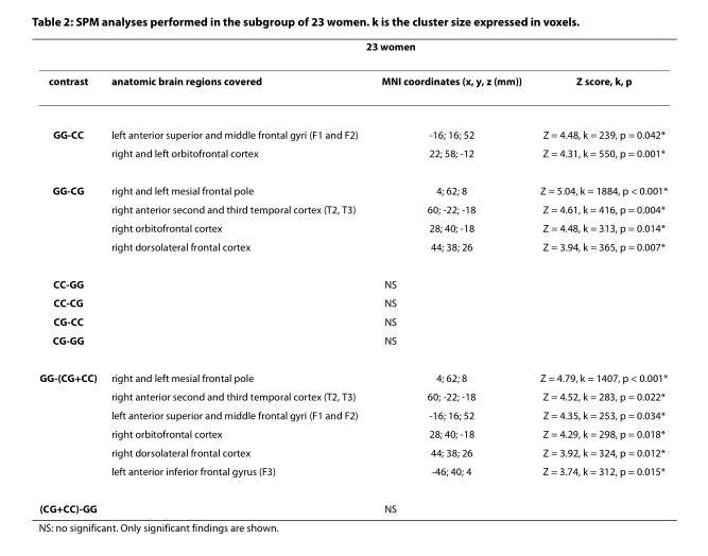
<table><thead><tr><td rowspan="2">contrast</td><td colspan="3">23 women</td></tr><tr><td>anatomic brain regions covered</td><td>MNI coordinates (x, y, z (mm))</td><td>Z score, k, p</td></tr></thead><tbody><tr><td rowspan="2">GG-CC</td><td>left anterior superior and middle frontal gyri (F1 and F2)</td><td>-16; 16; 52</td><td>Z = 4.48, k = 239, p = 0.042*</td></tr><tr><td>right and left orbitofrontal cortex</td><td>22; 58; -12</td><td>Z = 4.31, k = 550, p = 0.001*</td></tr><tr><td rowspan="4">GG-CG</td><td>right and left mesial frontal pole</td><td>4; 62; 8</td><td>Z = 5.04, k = 1884, p &lt; 0.001*</td></tr><tr><td>right anterior second and third temporal cortex (T2, T3)</td><td>60; -22; -18</td><td>Z = 4.61, k = 416, p = 0.004*</td></tr><tr><td>right orbitofrontal cortex</td><td>28; 40; -18</td><td>Z = 4.48, k = 313, p = 0.014*</td></tr><tr><td>right dorsolateral frontal cortex</td><td>44; 38; 26</td><td>Z = 3.94, k = 365, p = 0.007*</td></tr><tr><td>CC-GG</td><td colspan="3">NS</td></tr><tr><td>CC-CG</td><td colspan="3">NS</td></tr><tr><td>CG-CC</td><td colspan="3">NS</td></tr><tr><td>CG-GG</td><td colspan="3">NS</td></tr><tr><td rowspan="6">GG-(CG+CC)</td><td>right and left mesial frontal pole</td><td>4; 62; 8</td><td>Z = 4.79, k = 1407, p &lt; 0.001*</td></tr><tr><td>right anterior second and third temporal cortex (T2, T3)</td><td>60; -22; -18</td><td>Z = 4.52, k = 283, p = 0.022*</td></tr><tr><td>left anterior superior and middle frontal gyri (F1 and F2)</td><td>-16; 16; 52</td><td>Z = 4.35, k = 253, p = 0.034*</td></tr><tr><td>right orbitofrontal cortex</td><td>28; 40; -18</td><td>Z = 4.29, k = 298, p = 0.018*</td></tr><tr><td>right dorsolateral frontal cortex</td><td>44; 38; 26</td><td>Z = 3.92, k = 324, p = 0.012*</td></tr><tr><td>left anterior inferior frontal gyrus (F3)</td><td>-46; 40; 4</td><td>Z = 3.74, k = 312, p = 0.015*</td></tr><tr><td>(CG+CC)-GG</td><td colspan="3">NS</td></tr></tbody></table>